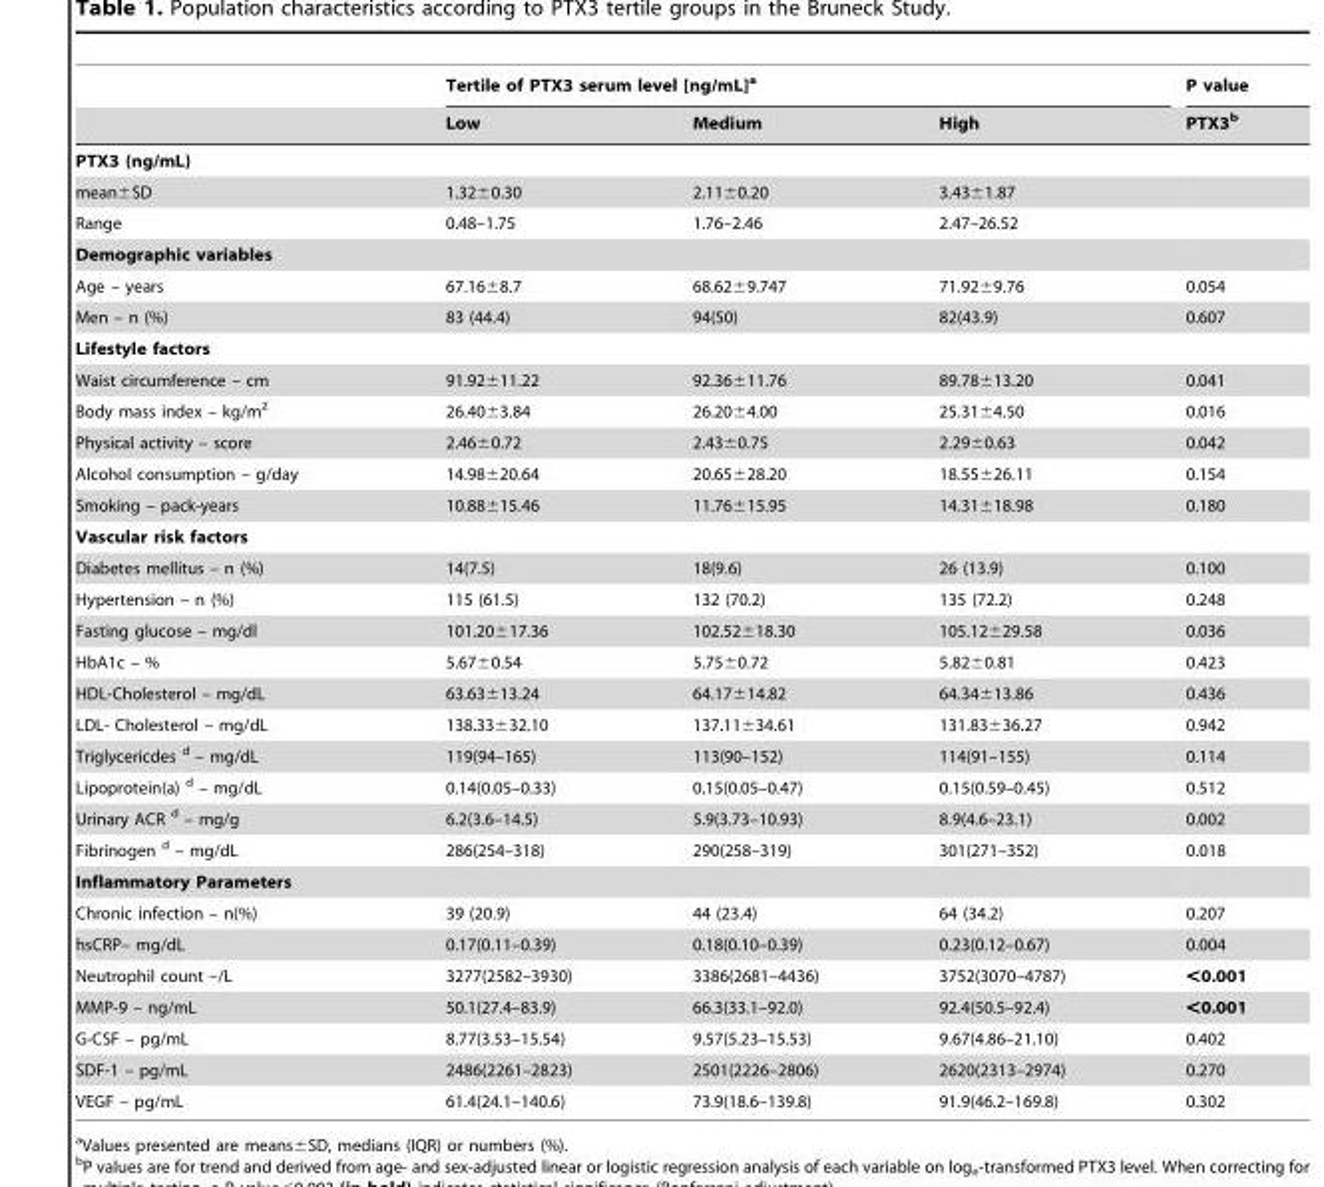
<table><thead><tr><td rowspan="2"></td><td colspan="3">Tertile of PTX3 serum level [ng/mL]<sup>a</sup></td><td rowspan="2">P value PTX3<sup>b</sup></td></tr><tr><td>Low</td><td>Medium</td><td>High</td></tr></thead><tbody><tr><td colspan="5">PTX3 (ng/mL)</td></tr><tr><td>mean±SD</td><td>1.32±0.30</td><td>2.11±0.20</td><td>3.43±1.87</td><td></td></tr><tr><td>Range</td><td>0.48–1.75</td><td>1.76–2.46</td><td>2.47–26.52</td><td></td></tr><tr><td colspan="5">Demographic variables</td></tr><tr><td>Age – years</td><td>67.16±8.7</td><td>68.62±9.747</td><td>71.92±9.76</td><td>0.054</td></tr><tr><td>Men – n (%)</td><td>83 (44.4)</td><td>94(50)</td><td>82(43.9)</td><td>0.607</td></tr><tr><td colspan="5">Lifestyle factors</td></tr><tr><td>Waist circumference – cm</td><td>91.92±11.22</td><td>92.36±11.76</td><td>89.78±13.20</td><td>0.041</td></tr><tr><td>Body mass index – kg/m<sup>2</sup></td><td>26.40±3.84</td><td>26.20±4.00</td><td>25.31±4.50</td><td>0.016</td></tr><tr><td>Physical activity – score</td><td>2.46±0.72</td><td>2.43±0.75</td><td>2.29±0.63</td><td>0.042</td></tr><tr><td>Alcohol consumption – g/day</td><td>14.98±20.64</td><td>20.65±28.20</td><td>18.55±26.11</td><td>0.154</td></tr><tr><td>Smoking – pack-years</td><td>10.88±15.46</td><td>11.76±15.95</td><td>14.31±18.98</td><td>0.180</td></tr><tr><td colspan="5">Vascular risk factors</td></tr><tr><td>Diabetes mellitus – n (%)</td><td>14(7.5)</td><td>18(9.6)</td><td>26 (13.9)</td><td>0.100</td></tr><tr><td>Hypertension – n (%)</td><td>115 (61.5)</td><td>132 (70.2)</td><td>135 (72.2)</td><td>0.248</td></tr><tr><td>Fasting glucose – mg/dl</td><td>101.20±17.36</td><td>102.52±18.30</td><td>105.12±29.58</td><td>0.036</td></tr><tr><td>HbA1c – %</td><td>5.67±0.54</td><td>5.75±0.72</td><td>5.82±0.81</td><td>0.423</td></tr><tr><td>HDL-Cholesterol – mg/dL</td><td>63.63±13.24</td><td>64.17±14.82</td><td>64.34±13.86</td><td>0.436</td></tr><tr><td>LDL- Cholesterol – mg/dL</td><td>138.33±32.10</td><td>137.11±34.61</td><td>131.83±36.27</td><td>0.942</td></tr><tr><td>Triglycericdes <sup>d</sup> – mg/dL</td><td>119(94–165)</td><td>113(90–152)</td><td>114(91–155)</td><td>0.114</td></tr><tr><td>Lipoprotein(a) <sup>d</sup> – mg/dL</td><td>0.14(0.05–0.33)</td><td>0.15(0.05–0.47)</td><td>0.15(0.59–0.45)</td><td>0.512</td></tr><tr><td>Urinary ACR <sup>d</sup> – mg/g</td><td>6.2(3.6–14.5)</td><td>5.9(3.73–10.93)</td><td>8.9(4.6–23.1)</td><td>0.002</td></tr><tr><td>Fibrinogen <sup>d</sup> – mg/dL</td><td>286(254–318)</td><td>290(258–319)</td><td>301(271–352)</td><td>0.018</td></tr><tr><td colspan="5">Inflammatory Parameters</td></tr><tr><td>Chronic infection – n(%)</td><td>39 (20.9)</td><td>44 (23.4)</td><td>64 (34.2)</td><td>0.207</td></tr><tr><td>hsCRP– mg/dL</td><td>0.17(0.11–0.39)</td><td>0.18(0.10–0.39)</td><td>0.23(0.12–0.67)</td><td>0.004</td></tr><tr><td>Neutrophil count –/L</td><td>3277(2582–3930)</td><td>3386(2681–4436)</td><td>3752(3070–4787)</td><td>&lt;0.001</td></tr><tr><td>MMP-9 – ng/mL</td><td>50.1(27.4–83.9)</td><td>66.3(33.1–92.0)</td><td>92.4(50.5–92.4)</td><td>&lt;0.001</td></tr><tr><td>G-CSF – pg/mL</td><td>8.77(3.53–15.54)</td><td>9.57(5.23–15.53)</td><td>9.67(4.86–21.10)</td><td>0.402</td></tr><tr><td>SDF-1 – pg/mL</td><td>2486(2261–2823)</td><td>2501(2226–2806)</td><td>2620(2313–2974)</td><td>0.270</td></tr><tr><td>VEGF – pg/mL</td><td>61.4(24.1–140.6)</td><td>73.9(18.6–139.8)</td><td>91.9(46.2–169.8)</td><td>0.302</td></tr></tbody></table>